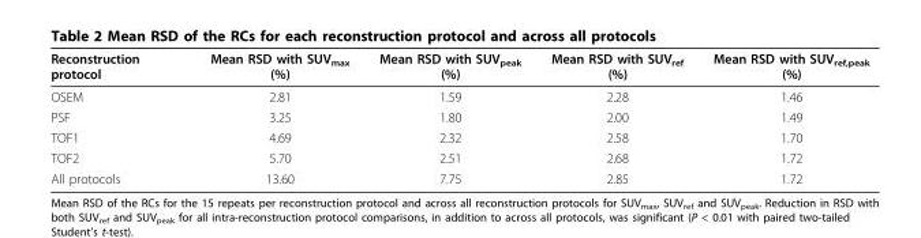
<table><thead><tr><td>Reconstruction protocol</td><td>Mean RSD with SUV<sub>max</sub> (%)</td><td>Mean RSD with SUV<sub>peak</sub> (%)</td><td>Mean RSD with SUV<sub>ref</sub> (%)</td><td>Mean RSD with SUV<sub>ref,peak</sub> (%)</td></tr></thead><tbody><tr><td>OSEM</td><td>2.81</td><td>1.59</td><td>2.28</td><td>1.46</td></tr><tr><td>PSF</td><td>3.25</td><td>1.80</td><td>2.00</td><td>1.49</td></tr><tr><td>TOF1</td><td>4.69</td><td>2.32</td><td>2.58</td><td>1.70</td></tr><tr><td>TOF2</td><td>5.70</td><td>2.51</td><td>2.68</td><td>1.72</td></tr><tr><td>All protocols</td><td>13.60</td><td>7.75</td><td>2.85</td><td>1.72</td></tr></tbody></table>